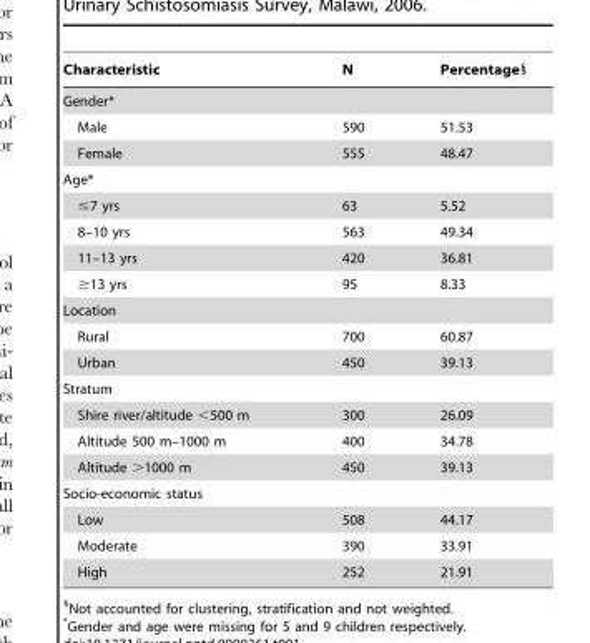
<table><thead><tr><td>Characteristic</td><td>N</td><td>Percentage§</td></tr></thead><tbody><tr><td colspan="3">Gender*</td></tr><tr><td>Male</td><td>590</td><td>51.53</td></tr><tr><td>Female</td><td>555</td><td>48.47</td></tr><tr><td colspan="3">Age*</td></tr><tr><td>≤7 yrs</td><td>63</td><td>5.52</td></tr><tr><td>8–10 yrs</td><td>563</td><td>49.34</td></tr><tr><td>11–13 yrs</td><td>420</td><td>36.81</td></tr><tr><td>≥13 yrs</td><td>95</td><td>8.33</td></tr><tr><td colspan="3">Location</td></tr><tr><td>Rural</td><td>700</td><td>60.87</td></tr><tr><td>Urban</td><td>450</td><td>39.13</td></tr><tr><td colspan="3">Stratum</td></tr><tr><td>Shire river/altitude &lt;500 m</td><td>300</td><td>26.09</td></tr><tr><td>Altitude 500 m–1000 m</td><td>400</td><td>34.78</td></tr><tr><td>Altitude &gt;1000 m</td><td>450</td><td>39.13</td></tr><tr><td colspan="3">Socio-economic status</td></tr><tr><td>Low</td><td>508</td><td>44.17</td></tr><tr><td>Moderate</td><td>390</td><td>33.91</td></tr><tr><td>High</td><td>252</td><td>21.91</td></tr></tbody></table>